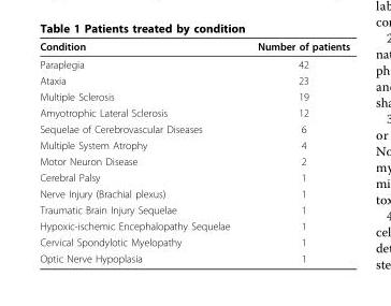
<table><thead><tr><td>Condition</td><td>Number of patients</td></tr></thead><tbody><tr><td>Paraplegia</td><td>42</td></tr><tr><td>Ataxia</td><td>23</td></tr><tr><td>Multiple Sclerosis</td><td>19</td></tr><tr><td>Amyotrophic Lateral Sclerosis</td><td>12</td></tr><tr><td>Sequelae of Cerebrovascular Diseases</td><td>6</td></tr><tr><td>Multiple System Atrophy</td><td>4</td></tr><tr><td>Motor Neuron Disease</td><td>2</td></tr><tr><td>Cerebral Palsy</td><td>1</td></tr><tr><td>Nerve Injury (Brachial plexus)</td><td>1</td></tr><tr><td>Traumatic Brain Injury Sequelae</td><td>1</td></tr><tr><td>Hypoxic-ischemic Encephalopathy Sequelae</td><td>1</td></tr><tr><td>Cervical Spondylotic Myelopathy</td><td>1</td></tr><tr><td>Optic Nerve Hypoplasia</td><td>1</td></tr></tbody></table>